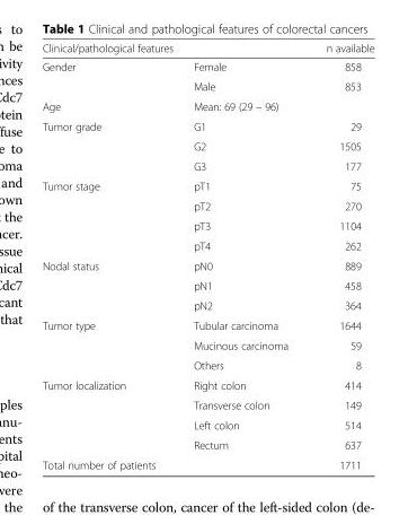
<table><thead><tr><td colspan="2">Clinical/pathological features</td><td rowspan="2">n available 858</td></tr><tr><td>Gender</td><td>Female</td></tr></thead><tbody><tr><td></td><td>Male</td><td>853</td></tr><tr><td>Age</td><td>Mean: 69 (29 – 96)</td><td></td></tr><tr><td rowspan="3">Tumor grade</td><td>G1</td><td>29</td></tr><tr><td>G2</td><td>1505</td></tr><tr><td>G3</td><td>177</td></tr><tr><td rowspan="4">Tumor stage</td><td>pT1</td><td>75</td></tr><tr><td>pT2</td><td>270</td></tr><tr><td>pT3</td><td>1104</td></tr><tr><td>pT4</td><td>262</td></tr><tr><td rowspan="3">Nodal status</td><td>pN0</td><td>889</td></tr><tr><td>pN1</td><td>458</td></tr><tr><td>pN2</td><td>364</td></tr><tr><td rowspan="3">Tumor type</td><td>Tubular carcinoma</td><td>1644</td></tr><tr><td>Mucinous carcinoma</td><td>59</td></tr><tr><td>Others</td><td>8</td></tr><tr><td rowspan="4">Tumor localization</td><td>Right colon</td><td>414</td></tr><tr><td>Transverse colon</td><td>149</td></tr><tr><td>Left colon</td><td>514</td></tr><tr><td>Rectum</td><td>637</td></tr><tr><td>Total number of patients</td><td></td><td>1711</td></tr></tbody></table>